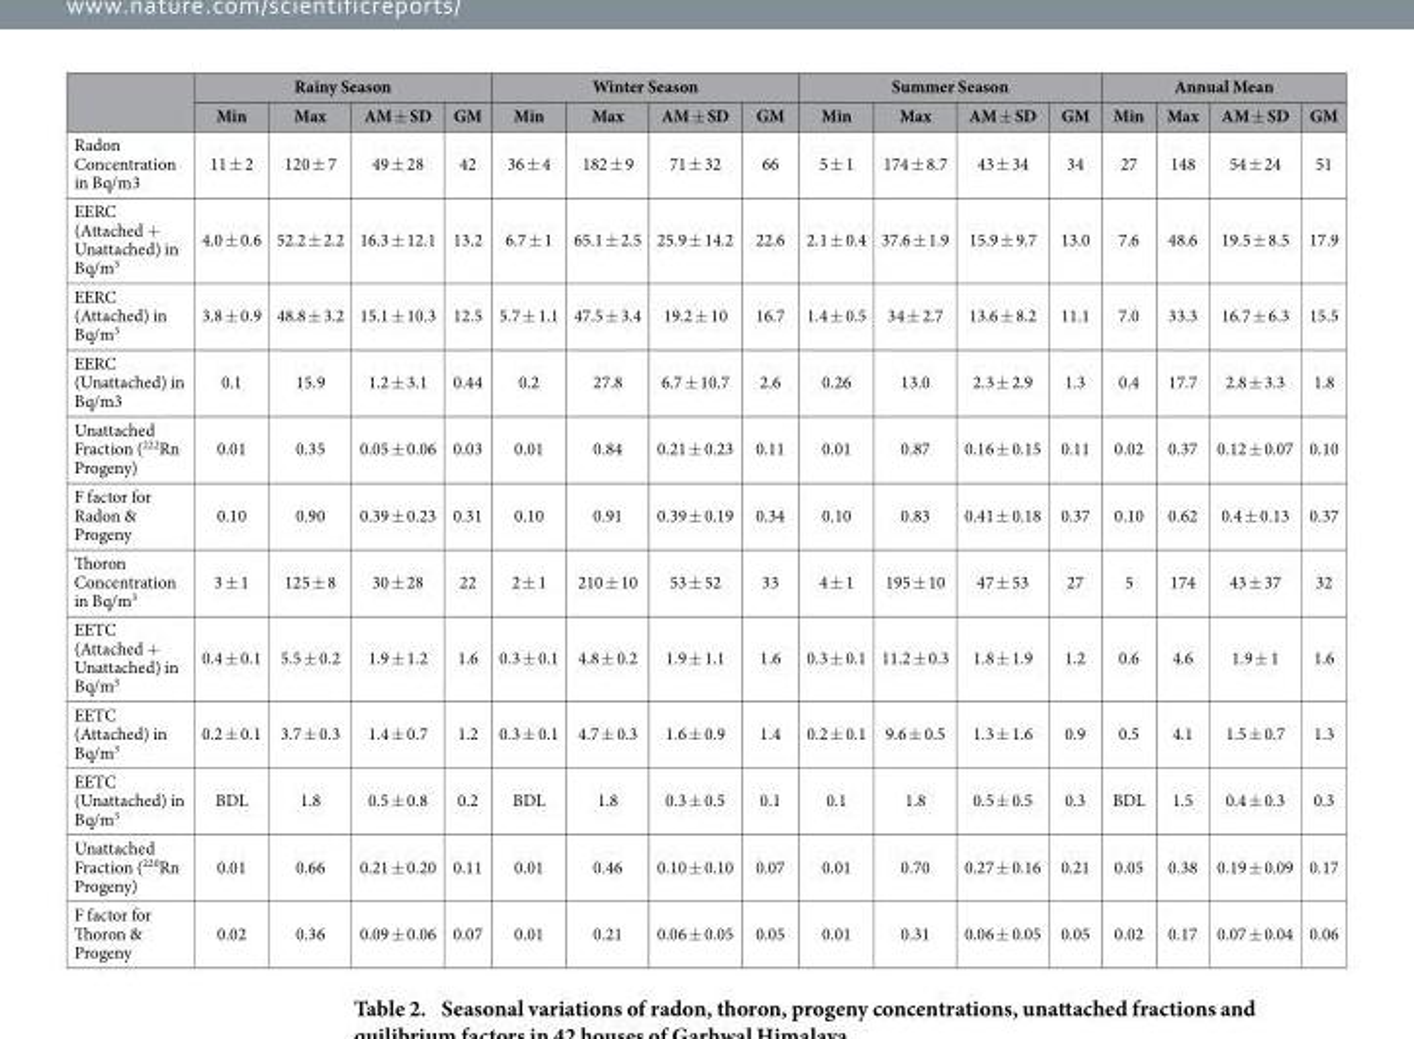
<table><thead><tr><td rowspan="2"></td><td colspan="4">Rainy Season</td><td colspan="4">Winter Season</td><td colspan="4">Summer Season</td><td colspan="4">Annual Mean</td></tr><tr><td>Min</td><td>Max</td><td>AM ± SD</td><td>GM</td><td>Min</td><td>Max</td><td>AM ± SD</td><td>GM</td><td>Min</td><td>Max</td><td>AM ± SD</td><td>GM</td><td>Min</td><td>Max</td><td>AM ± SD</td><td>GM</td></tr></thead><tbody><tr><td>Radon Concentration in Bq/m3</td><td>11 ± 2</td><td>120 ± 7</td><td>49 ± 28</td><td>42</td><td>36 ± 4</td><td>182 ± 9</td><td>71 ± 32</td><td>66</td><td>5 ± 1</td><td>174 ± 8.7</td><td>43 ± 34</td><td>34</td><td>27</td><td>148</td><td>54 ± 24</td><td>51</td></tr><tr><td>EERC (Attached + Unattached) in Bq/m<sup>3</sup></td><td>4.0 ± 0.6</td><td>52.2 ± 2.2</td><td>16.3 ± 12.1</td><td>13.2</td><td>6.7 ± 1</td><td>65.1 ± 2.5</td><td>25.9 ± 14.2</td><td>22.6</td><td>2.1 ± 0.4</td><td>37.6 ± 1.9</td><td>15.9 ± 9.7</td><td>13.0</td><td>7.6</td><td>48.6</td><td>19.5 ± 8.5</td><td>17.9</td></tr><tr><td>EERC (Attached) in Bq/m<sup>3</sup></td><td>3.8 ± 0.9</td><td>48.8 ± 3.2</td><td>15.1 ± 10.3</td><td>12.5</td><td>5.7 ± 1.1</td><td>47.5 ± 3.4</td><td>19.2 ± 10</td><td>16.7</td><td>1.4 ± 0.5</td><td>34 ± 2.7</td><td>13.6 ± 8.2</td><td>11.1</td><td>7.0</td><td>33.3</td><td>16.7 ± 6.3</td><td>15.5</td></tr><tr><td>EERC (Unattached) in Bq/m3</td><td>0.1</td><td>15.9</td><td>1.2 ± 3.1</td><td>0.44</td><td>0.2</td><td>27.8</td><td>6.7 ± 10.7</td><td>2.6</td><td>0.26</td><td>13.0</td><td>2.3 ± 2.9</td><td>1.3</td><td>0.4</td><td>17.7</td><td>2.8 ± 3.3</td><td>1.8</td></tr><tr><td>Unattached Fraction (<sup>222</sup>Rn Progeny)</td><td>0.01</td><td>0.35</td><td>0.05 ± 0.06</td><td>0.03</td><td>0.01</td><td>0.84</td><td>0.21 ± 0.23</td><td>0.11</td><td>0.01</td><td>0.87</td><td>0.16 ± 0.15</td><td>0.11</td><td>0.02</td><td>0.37</td><td>0.12 ± 0.07</td><td>0.10</td></tr><tr><td>F factor for Radon &amp; Progeny</td><td>0.10</td><td>0.90</td><td>0.39 ± 0.23</td><td>0.31</td><td>0.10</td><td>0.91</td><td>0.39 ± 0.19</td><td>0.34</td><td>0.10</td><td>0.83</td><td>0.41 ± 0.18</td><td>0.37</td><td>0.10</td><td>0.62</td><td>0.4 ± 0.13</td><td>0.37</td></tr><tr><td>Thoron Concentration in Bq/m<sup>3</sup></td><td>3 ± 1</td><td>125 ± 8</td><td>30 ± 28</td><td>22</td><td>2 ± 1</td><td>210 ± 10</td><td>53 ± 52</td><td>33</td><td>4 ± 1</td><td>195 ± 10</td><td>47 ± 53</td><td>27</td><td>5</td><td>174</td><td>43 ± 37</td><td>32</td></tr><tr><td>EETC (Attached + Unattached) in Bq/m<sup>3</sup></td><td>0.4 ± 0.1</td><td>5.5 ± 0.2</td><td>1.9 ± 1.2</td><td>1.6</td><td>0.3 ± 0.1</td><td>4.8 ± 0.2</td><td>1.9 ± 1.1</td><td>1.6</td><td>0.3 ± 0.1</td><td>11.2 ± 0.3</td><td>1.8 ± 1.9</td><td>1.2</td><td>0.6</td><td>4.6</td><td>1.9 ± 1</td><td>1.6</td></tr><tr><td>EETC (Attached) in Bq/m<sup>3</sup></td><td>0.2 ± 0.1</td><td>3.7 ± 0.3</td><td>1.4 ± 0.7</td><td>1.2</td><td>0.3 ± 0.1</td><td>4.7 ± 0.3</td><td>1.6 ± 0.9</td><td>1.4</td><td>0.2 ± 0.1</td><td>9.6 ± 0.5</td><td>1.3 ± 1.6</td><td>0.9</td><td>0.5</td><td>4.1</td><td>1.5 ± 0.7</td><td>1.3</td></tr><tr><td>EETC (Unattached) in Bq/m<sup>3</sup></td><td>BDL</td><td>1.8</td><td>0.5 ± 0.8</td><td>0.2</td><td>BDL</td><td>1.8</td><td>0.3 ± 0.5</td><td>0.1</td><td>0.1</td><td>1.8</td><td>0.5 ± 0.5</td><td>0.3</td><td>BDL</td><td>1.5</td><td>0.4 ± 0.3</td><td>0.3</td></tr><tr><td>Unattached Fraction (<sup>220</sup>Rn Progeny)</td><td>0.01</td><td>0.66</td><td>0.21 ± 0.20</td><td>0.11</td><td>0.01</td><td>0.46</td><td>0.10 ± 0.10</td><td>0.07</td><td>0.01</td><td>0.70</td><td>0.27 ± 0.16</td><td>0.21</td><td>0.05</td><td>0.38</td><td>0.19 ± 0.09</td><td>0.17</td></tr><tr><td>F factor for Thoron &amp; Progeny</td><td>0.02</td><td>0.36</td><td>0.09 ± 0.06</td><td>0.07</td><td>0.01</td><td>0.21</td><td>0.06 ± 0.05</td><td>0.05</td><td>0.01</td><td>0.31</td><td>0.06 ± 0.05</td><td>0.05</td><td>0.02</td><td>0.17</td><td>0.07 ± 0.04</td><td>0.06</td></tr></tbody></table>